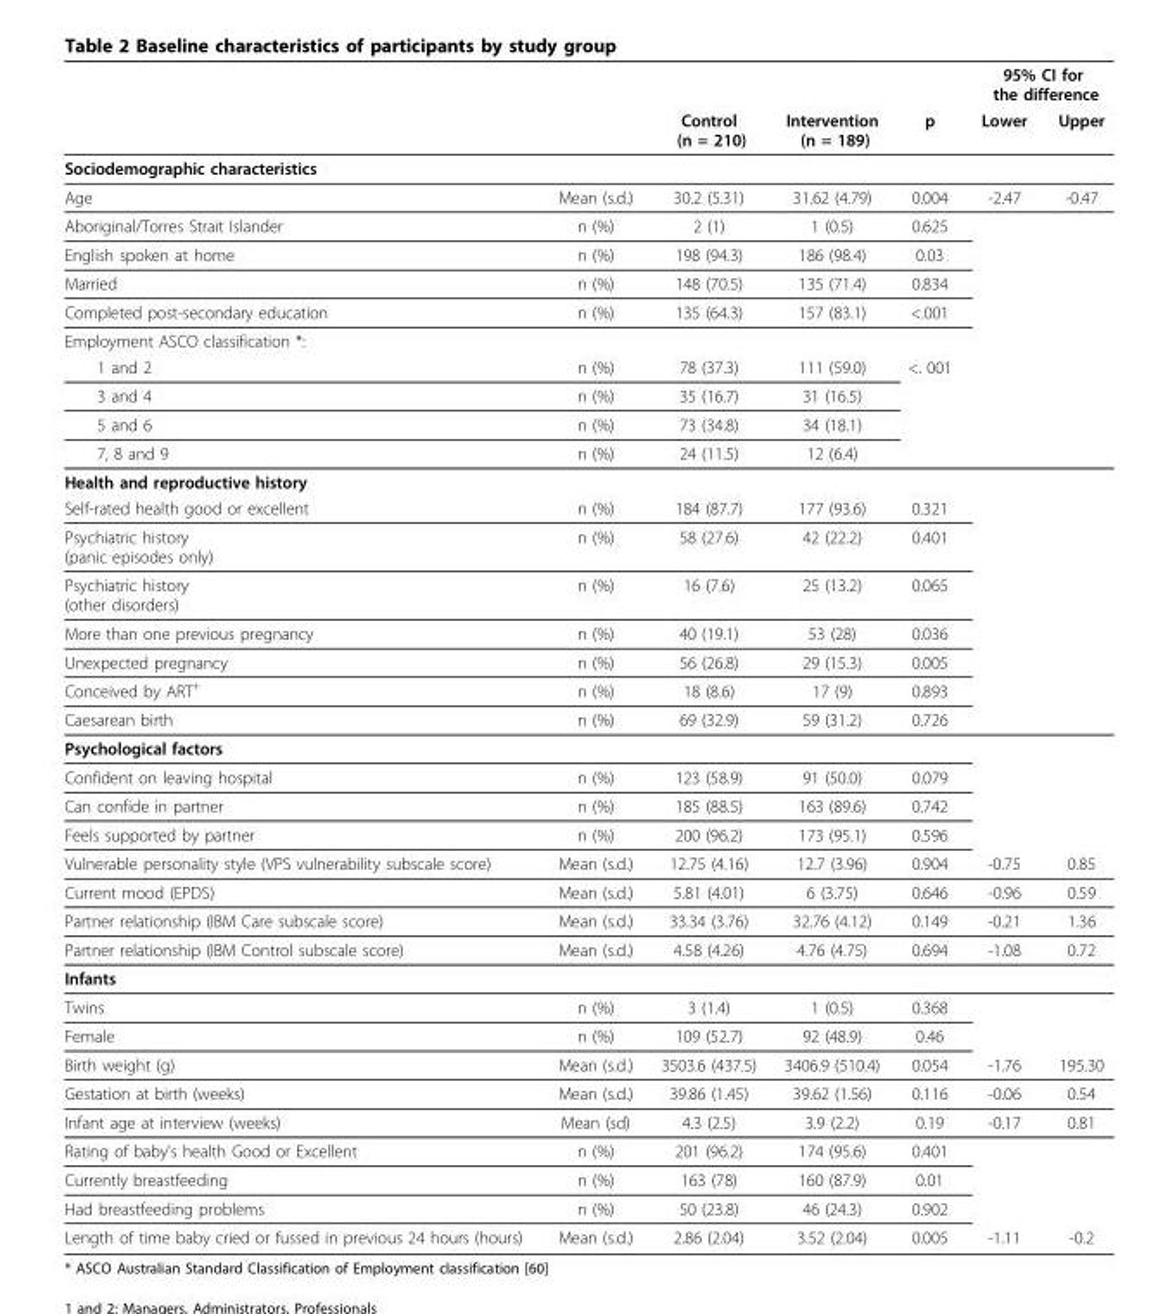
<table><thead><tr><td rowspan="2"></td><td rowspan="2"></td><td rowspan="2">Control (n = 210)</td><td rowspan="2">Intervention (n = 189)</td><td rowspan="2">p</td><td colspan="2">95% CI for the difference</td></tr><tr><td>Lower</td><td>Upper</td></tr></thead><tbody><tr><td colspan="7">Sociodemographic characteristics</td></tr><tr><td>Age</td><td>Mean (s.d.)</td><td>30.2 (5.31)</td><td>31.62 (4.79)</td><td>0.004</td><td>-2.47</td><td>-0.47</td></tr><tr><td>Aboriginal/Torres Strait Islander</td><td>n (%)</td><td>2 (1)</td><td>1 (0.5)</td><td>0.625</td><td></td><td></td></tr><tr><td>English spoken at home</td><td>n (%)</td><td>198 (94.3)</td><td>186 (98.4)</td><td>0.03</td><td></td><td></td></tr><tr><td>Married</td><td>n (%)</td><td>148 (70.5)</td><td>135 (71.4)</td><td>0.834</td><td></td><td></td></tr><tr><td>Completed post-secondary education</td><td>n (%)</td><td>135 (64.3)</td><td>157 (83.1)</td><td>&lt;.001</td><td></td><td></td></tr><tr><td colspan="7">Employment ASCO classification *:</td></tr><tr><td>1 and 2</td><td>n (%)</td><td>78 (37.3)</td><td>111 (59.0)</td><td>&lt;. 001</td><td></td><td></td></tr><tr><td>3 and 4</td><td>n (%)</td><td>35 (16.7)</td><td>31 (16.5)</td><td></td><td></td><td></td></tr><tr><td>5 and 6</td><td>n (%)</td><td>73 (34.8)</td><td>34 (18.1)</td><td></td><td></td><td></td></tr><tr><td>7, 8 and 9</td><td>n (%)</td><td>24 (11.5)</td><td>12 (6.4)</td><td></td><td></td><td></td></tr><tr><td colspan="7">Health and reproductive history</td></tr><tr><td>Self-rated health good or excellent</td><td>n (%)</td><td>184 (87.7)</td><td>177 (93.6)</td><td>0.321</td><td></td><td></td></tr><tr><td>Psychiatric history (panic episodes only)</td><td>n (%)</td><td>58 (27.6)</td><td>42 (22.2)</td><td>0.401</td><td></td><td></td></tr><tr><td>Psychiatric history (other disorders)</td><td>n (%)</td><td>16 (7.6)</td><td>25 (13.2)</td><td>0.065</td><td></td><td></td></tr><tr><td>More than one previous pregnancy</td><td>n (%)</td><td>40 (19.1)</td><td>53 (28)</td><td>0.036</td><td></td><td></td></tr><tr><td>Unexpected pregnancy</td><td>n (%)</td><td>56 (26.8)</td><td>29 (15.3)</td><td>0.005</td><td></td><td></td></tr><tr><td>Conceived by ART<sup>+</sup></td><td>n (%)</td><td>18 (8.6)</td><td>17 (9)</td><td>0.893</td><td></td><td></td></tr><tr><td>Caesarean birth</td><td>n (%)</td><td>69 (32.9)</td><td>59 (31.2)</td><td>0.726</td><td></td><td></td></tr><tr><td colspan="7">Psychological factors</td></tr><tr><td>Confident on leaving hospital</td><td>n (%)</td><td>123 (58.9)</td><td>91 (50.0)</td><td>0.079</td><td></td><td></td></tr><tr><td>Can confide in partner</td><td>n (%)</td><td>185 (88.5)</td><td>163 (89.6)</td><td>0.742</td><td></td><td></td></tr><tr><td>Feels supported by partner</td><td>n (%)</td><td>200 (96.2)</td><td>173 (95.1)</td><td>0.596</td><td></td><td></td></tr><tr><td>Vulnerable personality style (VPS vulnerability subscale score)</td><td>Mean (s.d.)</td><td>12.75 (4.16)</td><td>12.7 (3.96)</td><td>0.904</td><td>-0.75</td><td>0.85</td></tr><tr><td>Current mood (EPDS)</td><td>Mean (s.d.)</td><td>5.81 (4.01)</td><td>6 (3.75)</td><td>0.646</td><td>-0.96</td><td>0.59</td></tr><tr><td>Partner relationship (IBM Care subscale score)</td><td>Mean (s.d.)</td><td>33.34 (3.76)</td><td>32.76 (4.12)</td><td>0.149</td><td>-0.21</td><td>1.36</td></tr><tr><td>Partner relationship (IBM Control subscale score)</td><td>Mean (s.d.)</td><td>4.58 (4.26)</td><td>4.76 (4.75)</td><td>0.694</td><td>-1.08</td><td>0.72</td></tr><tr><td colspan="7">Infants</td></tr><tr><td>Twins</td><td>n (%)</td><td>3 (1.4)</td><td>1 (0.5)</td><td>0.368</td><td></td><td></td></tr><tr><td>Female</td><td>n (%)</td><td>109 (52.7)</td><td>92 (48.9)</td><td>0.46</td><td></td><td></td></tr><tr><td>Birth weight (g)</td><td>Mean (s.d.)</td><td>3503.6 (437.5)</td><td>3406.9 (510.4)</td><td>0.054</td><td>-1.76</td><td>195.30</td></tr><tr><td>Gestation at birth (weeks)</td><td>Mean (s.d.)</td><td>39.86 (1.45)</td><td>39.62 (1.56)</td><td>0.116</td><td>-0.06</td><td>0.54</td></tr><tr><td>Infant age at interview (weeks)</td><td>Mean (sd)</td><td>4.3 (2.5)</td><td>3.9 (2.2)</td><td>0.19</td><td>-0.17</td><td>0.81</td></tr><tr><td>Rating of baby’s health Good or Excellent</td><td>n (%)</td><td>201 (96.2)</td><td>174 (95.6)</td><td>0.401</td><td></td><td></td></tr><tr><td>Currently breastfeeding</td><td>n (%)</td><td>163 (78)</td><td>160 (87.9)</td><td>0.01</td><td></td><td></td></tr><tr><td>Had breastfeeding problems</td><td>n (%)</td><td>50 (23.8)</td><td>46 (24.3)</td><td>0.902</td><td></td><td></td></tr><tr><td>Length of time baby cried or fussed in previous 24 hours (hours)</td><td>Mean (s.d.)</td><td>2.86 (2.04)</td><td>3.52 (2.04)</td><td>0.005</td><td>-1.11</td><td>-0.2</td></tr></tbody></table>